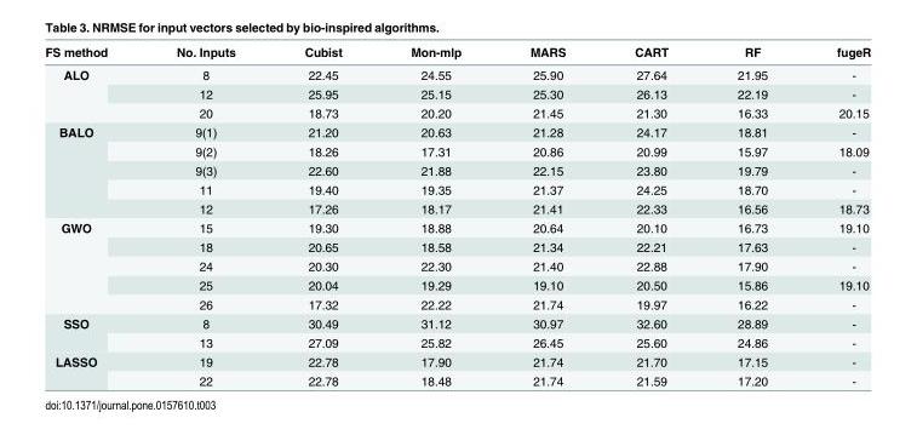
<table><thead><tr><td>FS method</td><td>No. Inputs</td><td>Cubist</td><td>Mon-mlp</td><td>MARS</td><td>CART</td><td>RF</td><td>fugeR</td></tr></thead><tbody><tr><td rowspan="3">ALO</td><td>8</td><td>22.45</td><td>24.55</td><td>25.90</td><td>27.64</td><td>21.95</td><td>-</td></tr><tr><td>12</td><td>25.95</td><td>25.15</td><td>25.30</td><td>26.13</td><td>22.19</td><td>-</td></tr><tr><td>20</td><td>18.73</td><td>20.20</td><td>21.45</td><td>21.30</td><td>16.33</td><td>20.15</td></tr><tr><td rowspan="5">BALO</td><td>9(1)</td><td>21.20</td><td>20.63</td><td>21.28</td><td>24.17</td><td>18.81</td><td>-</td></tr><tr><td>9(2)</td><td>18.26</td><td>17.31</td><td>20.86</td><td>20.99</td><td>15.97</td><td>18.09</td></tr><tr><td>9(3)</td><td>22.60</td><td>21.88</td><td>22.15</td><td>23.80</td><td>19.79</td><td>-</td></tr><tr><td>11</td><td>19.40</td><td>19.35</td><td>21.37</td><td>24.25</td><td>18.70</td><td>-</td></tr><tr><td>12</td><td>17.26</td><td>18.17</td><td>21.41</td><td>22.33</td><td>16.56</td><td>18.73</td></tr><tr><td rowspan="5">GWO</td><td>15</td><td>19.30</td><td>18.88</td><td>20.64</td><td>20.10</td><td>16.73</td><td>19.10</td></tr><tr><td>18</td><td>20.65</td><td>18.58</td><td>21.34</td><td>22.21</td><td>17.63</td><td>-</td></tr><tr><td>24</td><td>20.30</td><td>22.30</td><td>21.40</td><td>22.88</td><td>17.90</td><td>-</td></tr><tr><td>25</td><td>20.04</td><td>19.29</td><td>19.10</td><td>20.50</td><td>15.86</td><td>19.10</td></tr><tr><td>26</td><td>17.32</td><td>22.22</td><td>21.74</td><td>19.97</td><td>16.22</td><td>-</td></tr><tr><td rowspan="2">SSO</td><td>8</td><td>30.49</td><td>31.12</td><td>30.97</td><td>32.60</td><td>28.89</td><td>-</td></tr><tr><td>13</td><td>27.09</td><td>25.82</td><td>26.45</td><td>25.60</td><td>24.86</td><td>-</td></tr><tr><td rowspan="2">LASSO</td><td>19</td><td>22.78</td><td>17.90</td><td>21.74</td><td>21.70</td><td>17.15</td><td>-</td></tr><tr><td>22</td><td>22.78</td><td>18.48</td><td>21.74</td><td>21.59</td><td>17.20</td><td>-</td></tr></tbody></table>